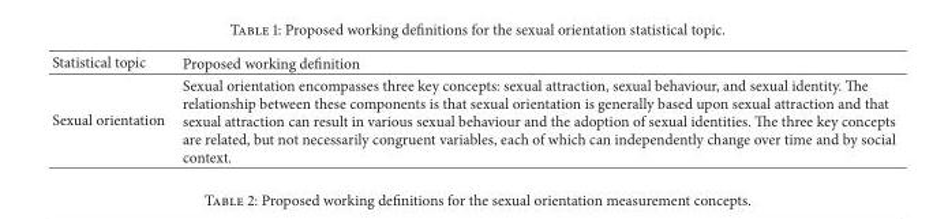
<table><thead><tr><td>Statistical topic</td><td>Proposed working definition</td></tr></thead><tbody><tr><td>Sexual orientation</td><td>Sexual orientation encompasses three key concepts: sexual attraction, sexual behaviour, and sexual identity. The relationship between these components is that sexual orientation is generally based upon sexual attraction and that sexual attraction can result in various sexual behaviour and the adoption of sexual identities. The three key concepts are related, but not necessarily congruent variables, each of which can independently change over time and by social context.</td></tr></tbody></table>